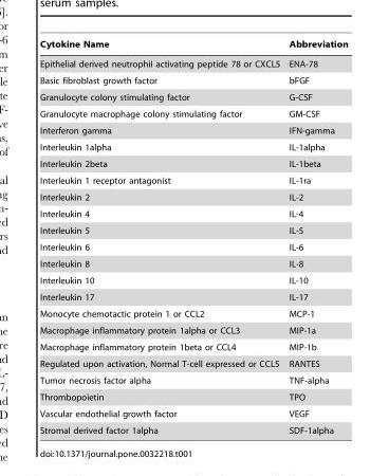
<table><thead><tr><td>Cytokine Name</td><td>Abbreviation</td></tr></thead><tbody><tr><td>Epithelial derived neutrophil activating peptide 78 or CXCL5</td><td>ENA-78</td></tr><tr><td>Basic fibroblast growth factor</td><td>bFGF</td></tr><tr><td>Granulocyte colony stimulating factor</td><td>G-CSF</td></tr><tr><td>Granulocyte macrophage colony stimulating factor</td><td>GM-CSF</td></tr><tr><td>Interferon gamma</td><td>IFN-gamma</td></tr><tr><td>Interleukin 1alpha</td><td>IL-1alpha</td></tr><tr><td>Interleukin 2beta</td><td>IL-1beta</td></tr><tr><td>Interleukin 1 receptor antagonist</td><td>IL-1ra</td></tr><tr><td>Interleukin 2</td><td>IL-2</td></tr><tr><td>Interleukin 4</td><td>IL-4</td></tr><tr><td>Interleukin 5</td><td>IL-5</td></tr><tr><td>Interleukin 6</td><td>IL-6</td></tr><tr><td>Interleukin 8</td><td>IL-8</td></tr><tr><td>Interleukin 10</td><td>IL-10</td></tr><tr><td>Interleukin 17</td><td>IL-17</td></tr><tr><td>Monocyte chemotactic protein 1 or CCL2</td><td>MCP-1</td></tr><tr><td>Macrophage inflammatory protein 1alpha or CCL3</td><td>MIP-1a</td></tr><tr><td>Macrophage inflammatory protein 1beta or CCL4</td><td>MIP-1b</td></tr><tr><td>Regulated upon activation, Normal T-cell expressed or CCL5</td><td>RANTES</td></tr><tr><td>Tumor necrosis factor alpha</td><td>TNF-alpha</td></tr><tr><td>Thrombopoietin</td><td>TPO</td></tr><tr><td>Vascular endothelial growth factor</td><td>VEGF</td></tr><tr><td>Stromal derived factor 1alpha</td><td>SDF-1alpha</td></tr></tbody></table>